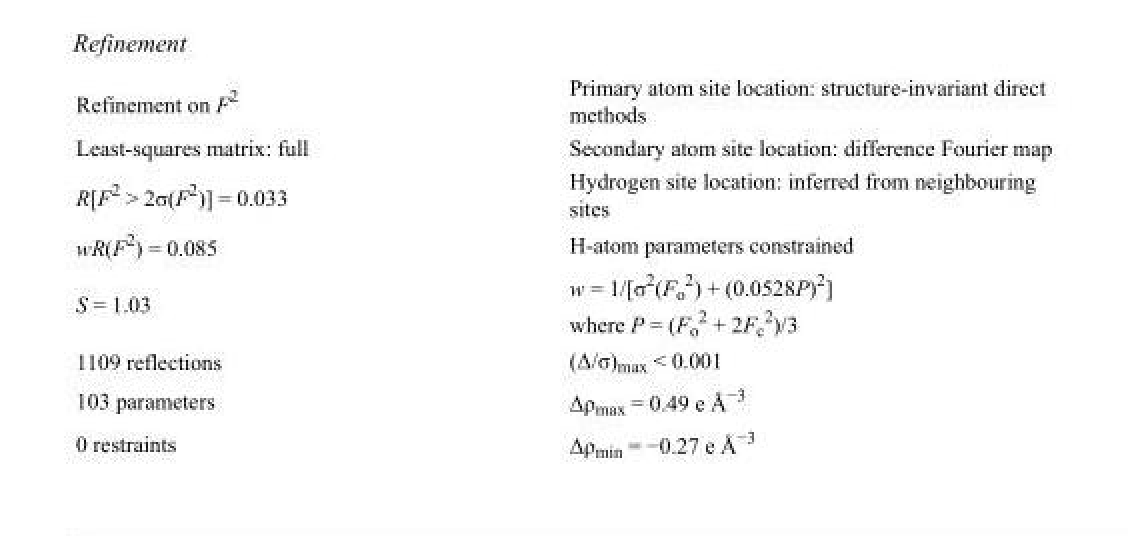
<table><tbody><tr><td>Refinement on F<sup>2</sup></td><td>Primary atom site location: structure-invariant direct methods</td></tr><tr><td>Least-squares matrix: full</td><td>Secondary atom site location: difference Fourier map</td></tr><tr><td>R[F<sup>2</sup> &gt; 2σ(F<sup>2</sup>)] = 0.033</td><td>Hydrogen site location: inferred from neighbouring sites</td></tr><tr><td>wR(F<sup>2</sup>) = 0.085</td><td>H-atom parameters constrained</td></tr><tr><td>S = 1.03</td><td>w = 1/[σ<sup>2</sup>(F<sub>o</sub> <sup>2</sup>) + (0.0528P)<sup>2</sup>] where P = (F<sub>o</sub> <sup>2</sup> + 2F<sub>c</sub> <sup>2</sup>)/3</td></tr><tr><td>1109 reflections</td><td>(Δ/σ)<sub>max</sub> &lt; 0.001</td></tr><tr><td>103 parameters</td><td>Δρ<sub>max</sub> = 0.49 e Å<sup>−3</sup></td></tr><tr><td>0 restraints</td><td>Δρ<sub>min</sub> = −0.27 e Å<sup>−3</sup></td></tr></tbody></table>